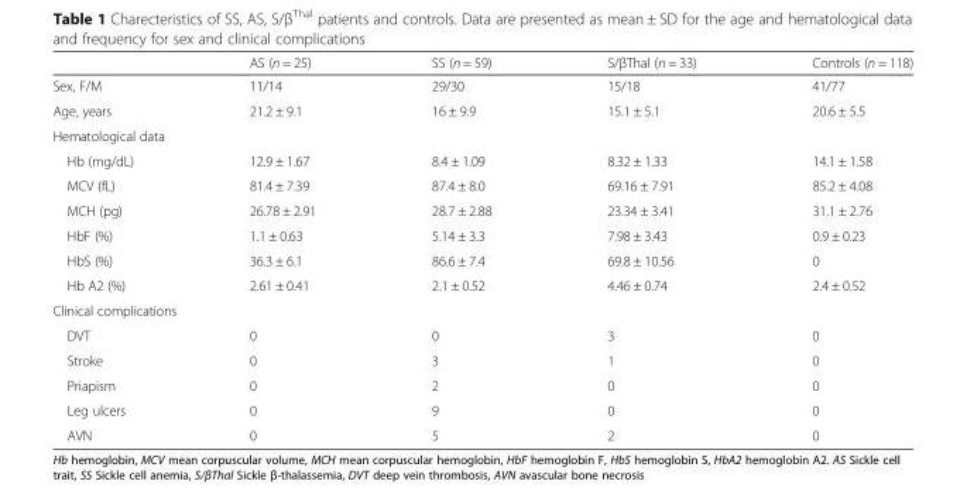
<table><thead><tr><td></td><td>AS (n = 25)</td><td>SS (n = 59)</td><td>S/βThal (n = 33)</td><td>Controls (n = 118)</td></tr></thead><tbody><tr><td>Sex, F/M</td><td>11/14</td><td>29/30</td><td>15/18</td><td>41/77</td></tr><tr><td>Age, years</td><td>21.2 ± 9.1</td><td>16 ± 9.9</td><td>15.1 ± 5.1</td><td>20.6 ± 5.5</td></tr><tr><td colspan="5">Hematological data</td></tr><tr><td>Hb (mg/dL)</td><td>12.9 ± 1.67</td><td>8.4 ± 1.09</td><td>8.32 ± 1.33</td><td>14.1 ± 1.58</td></tr><tr><td>MCV (fL)</td><td>81.4 ± 7.39</td><td>87.4 ± 8.0</td><td>69.16 ± 7.91</td><td>85.2 ± 4.08</td></tr><tr><td>MCH (pg)</td><td>26.78 ± 2.91</td><td>28.7 ± 2.88</td><td>23.34 ± 3.41</td><td>31.1 ± 2.76</td></tr><tr><td>HbF (%)</td><td>1.1 ± 0.63</td><td>5.14 ± 3.3</td><td>7.98 ± 3.43</td><td>0.9 ± 0.23</td></tr><tr><td>HbS (%)</td><td>36.3 ± 6.1</td><td>86.6 ± 7.4</td><td>69.8 ± 10.56</td><td>0</td></tr><tr><td>Hb A2 (%)</td><td>2.61 ± 0.41</td><td>2.1 ± 0.52</td><td>4.46 ± 0.74</td><td>2.4 ± 0.52</td></tr><tr><td colspan="5">Clinical complications</td></tr><tr><td>DVT</td><td>0</td><td>0</td><td>3</td><td>0</td></tr><tr><td>Stroke</td><td>0</td><td>3</td><td>1</td><td>0</td></tr><tr><td>Priapism</td><td>0</td><td>2</td><td>0</td><td>0</td></tr><tr><td>Leg ulcers</td><td>0</td><td>9</td><td>0</td><td>0</td></tr><tr><td>AVN</td><td>0</td><td>5</td><td>2</td><td>0</td></tr></tbody></table>